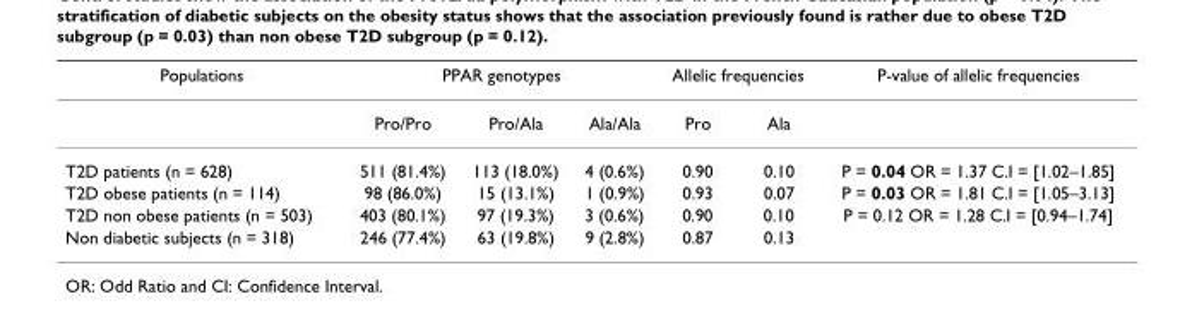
<table><thead><tr><td rowspan="2">Populations</td><td colspan="3">PPAR genotypes</td><td colspan="2">Allelic frequencies</td><td rowspan="2">P-value of allelic frequencies</td></tr><tr><td>Pro/Pro</td><td>Pro/Ala</td><td>Ala/Ala</td><td>Pro</td><td>Ala</td></tr></thead><tbody><tr><td>T2D patients (n = 628)</td><td>511 (81.4%)</td><td>113 (18.0%)</td><td>4 (0.6%)</td><td>0.90</td><td>0.10</td><td>P = 0.04 OR = 1.37 C.I = [1.02–1.85]</td></tr><tr><td>T2D obese patients (n = 114)</td><td>98 (86.0%)</td><td>15 (13.1%)</td><td>1 (0.9%)</td><td>0.93</td><td>0.07</td><td>P = 0.03 OR = 1.81 C.I = [1.05–3.13]</td></tr><tr><td>T2D non obese patients (n = 503)</td><td>403 (80.1%)</td><td>97 (19.3%)</td><td>3 (0.6%)</td><td>0.90</td><td>0.10</td><td>P = 0.12 OR = 1.28 C.I = [0.94–1.74]</td></tr><tr><td>Non diabetic subjects (n = 318)</td><td>246 (77.4%)</td><td>63 (19.8%)</td><td>9 (2.8%)</td><td>0.87</td><td>0.13</td><td></td></tr></tbody></table>